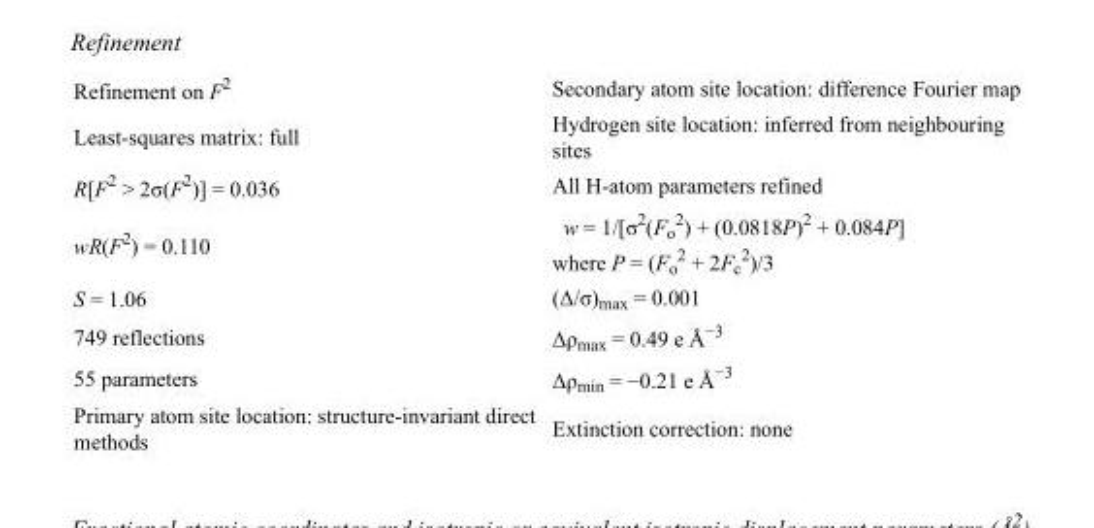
<table><tbody><tr><td>Refinement on F<sup>2</sup></td><td>Secondary atom site location: difference Fourier map</td></tr><tr><td>Least-squares matrix: full</td><td>Hydrogen site location: inferred from neighbouring sites</td></tr><tr><td>R[F<sup>2</sup> &gt; 2σ(F<sup>2</sup>)] = 0.036</td><td>All H-atom parameters refined</td></tr><tr><td>wR(F<sup>2</sup>) = 0.110</td><td>w = 1/[σ<sup>2</sup>(F<sub>o</sub> <sup>2</sup>) + (0.0818P)<sup>2</sup> + 0.084P] where P = (F<sub>o</sub> <sup>2</sup> + 2F<sub>c</sub> <sup>2</sup>)/3</td></tr><tr><td>S = 1.06</td><td>(Δ/σ)<sub>max</sub> = 0.001</td></tr><tr><td>749 reflections</td><td>Δρ<sub>max</sub> = 0.49 e Å<sup>−3</sup></td></tr><tr><td>55 parameters</td><td>Δρ<sub>min</sub> = −0.21 e Å<sup>−3</sup></td></tr><tr><td>Primary atom site location: structure-invariant direct methods</td><td>Extinction correction: none</td></tr></tbody></table>